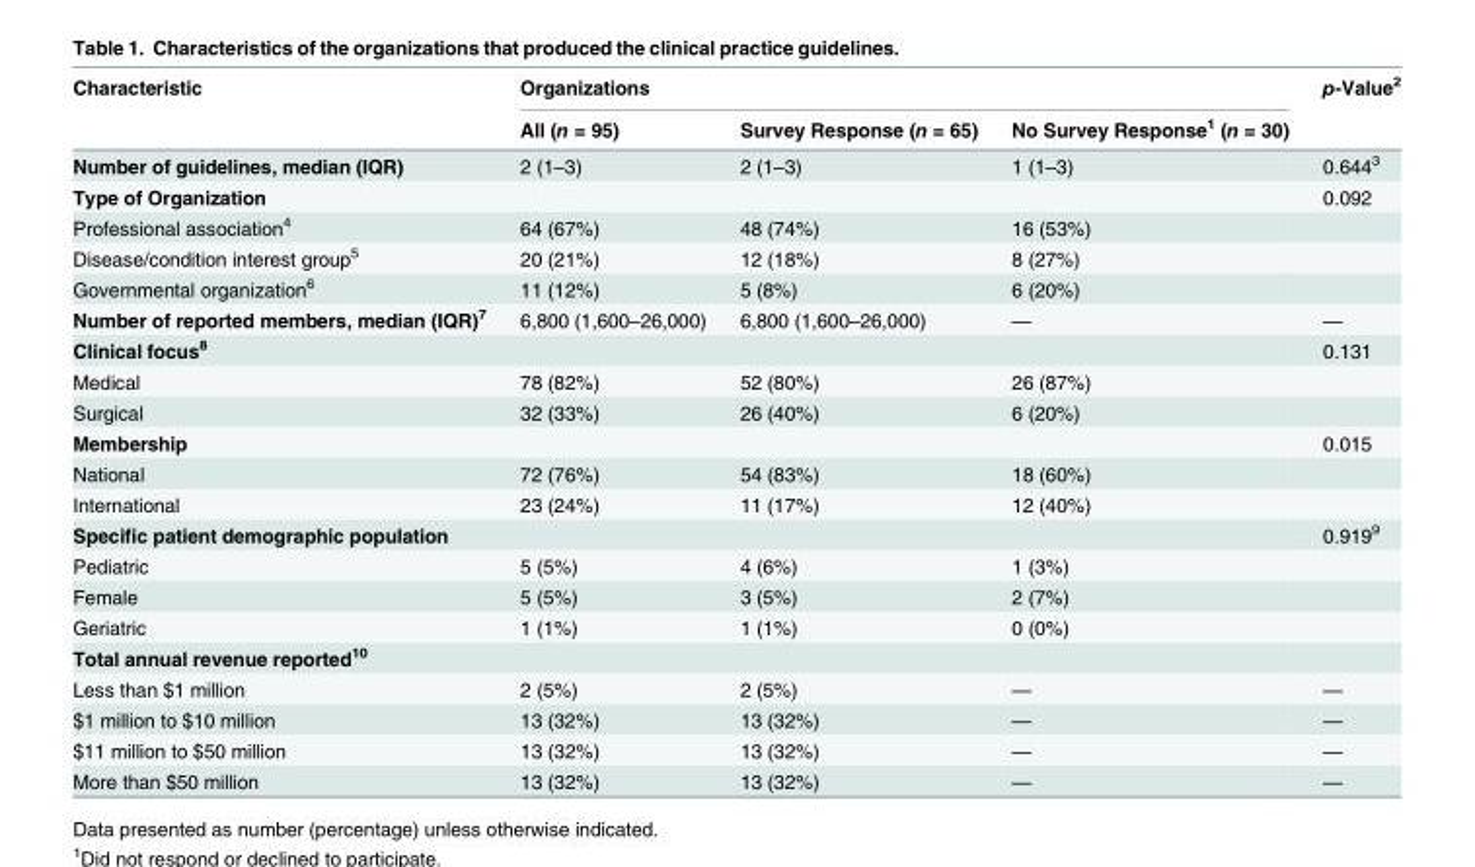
<table><thead><tr><td rowspan="2">Characteristic</td><td colspan="3">Organizations</td><td rowspan="2">p-Value<sup>2</sup></td></tr><tr><td>All (n = 95)</td><td>Survey Response (n = 65)</td><td>No Survey Response<sup>1</sup> (n = 30)</td></tr></thead><tbody><tr><td>Number of guidelines, median (IQR)</td><td>2 (1–3)</td><td>2 (1–3)</td><td>1 (1–3)</td><td>0.644<sup>3</sup></td></tr><tr><td>Type of Organization</td><td></td><td></td><td></td><td>0.092</td></tr><tr><td>Professional association<sup>4</sup></td><td>64 (67%)</td><td>48 (74%)</td><td>16 (53%)</td><td></td></tr><tr><td>Disease/condition interest group<sup>5</sup></td><td>20 (21%)</td><td>12 (18%)</td><td>8 (27%)</td><td></td></tr><tr><td>Governmental organization<sup>6</sup></td><td>11 (12%)</td><td>5 (8%)</td><td>6 (20%)</td><td></td></tr><tr><td>Number of reported members, median (IQR)<sup>7</sup></td><td>6,800 (1,600–26,000)</td><td>6,800 (1,600–26,000)</td><td>—</td><td>—</td></tr><tr><td>Clinical focus<sup>8</sup></td><td></td><td></td><td></td><td>0.131</td></tr><tr><td>Medical</td><td>78 (82%)</td><td>52 (80%)</td><td>26 (87%)</td><td></td></tr><tr><td>Surgical</td><td>32 (33%)</td><td>26 (40%)</td><td>6 (20%)</td><td></td></tr><tr><td>Membership</td><td></td><td></td><td></td><td>0.015</td></tr><tr><td>National</td><td>72 (76%)</td><td>54 (83%)</td><td>18 (60%)</td><td></td></tr><tr><td>International</td><td>23 (24%)</td><td>11 (17%)</td><td>12 (40%)</td><td></td></tr><tr><td>Specific patient demographic population</td><td></td><td></td><td></td><td>0.919<sup>9</sup></td></tr><tr><td>Pediatric</td><td>5 (5%)</td><td>4 (6%)</td><td>1 (3%)</td><td></td></tr><tr><td>Female</td><td>5 (5%)</td><td>3 (5%)</td><td>2 (7%)</td><td></td></tr><tr><td>Geriatric</td><td>1 (1%)</td><td>1 (1%)</td><td>0 (0%)</td><td></td></tr><tr><td colspan="5">Total annual revenue reported<sup>10</sup></td></tr><tr><td>Less than $1 million</td><td>2 (5%)</td><td>2 (5%)</td><td>—</td><td>—</td></tr><tr><td>$1 million to $10 million</td><td>13 (32%)</td><td>13 (32%)</td><td>—</td><td>—</td></tr><tr><td>$11 million to $50 million</td><td>13 (32%)</td><td>13 (32%)</td><td>—</td><td>—</td></tr><tr><td>More than $50 million</td><td>13 (32%)</td><td>13 (32%)</td><td>—</td><td>—</td></tr></tbody></table>